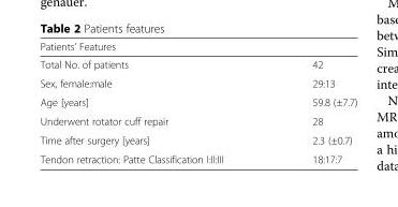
<table><thead><tr><td colspan="2">Patients’ Features</td></tr><tr><td>Total No. of patients</td><td>42</td></tr></thead><tbody><tr><td>Sex, female:male</td><td>29:13</td></tr><tr><td>Age [years]</td><td>59.8 (±7.7)</td></tr><tr><td>Underwent rotator cuff repair</td><td>28</td></tr><tr><td>Time after surgery [years]</td><td>2.3 (±0.7)</td></tr><tr><td>Tendon retraction: Patte Classification I:II:III</td><td>18:17:7</td></tr></tbody></table>